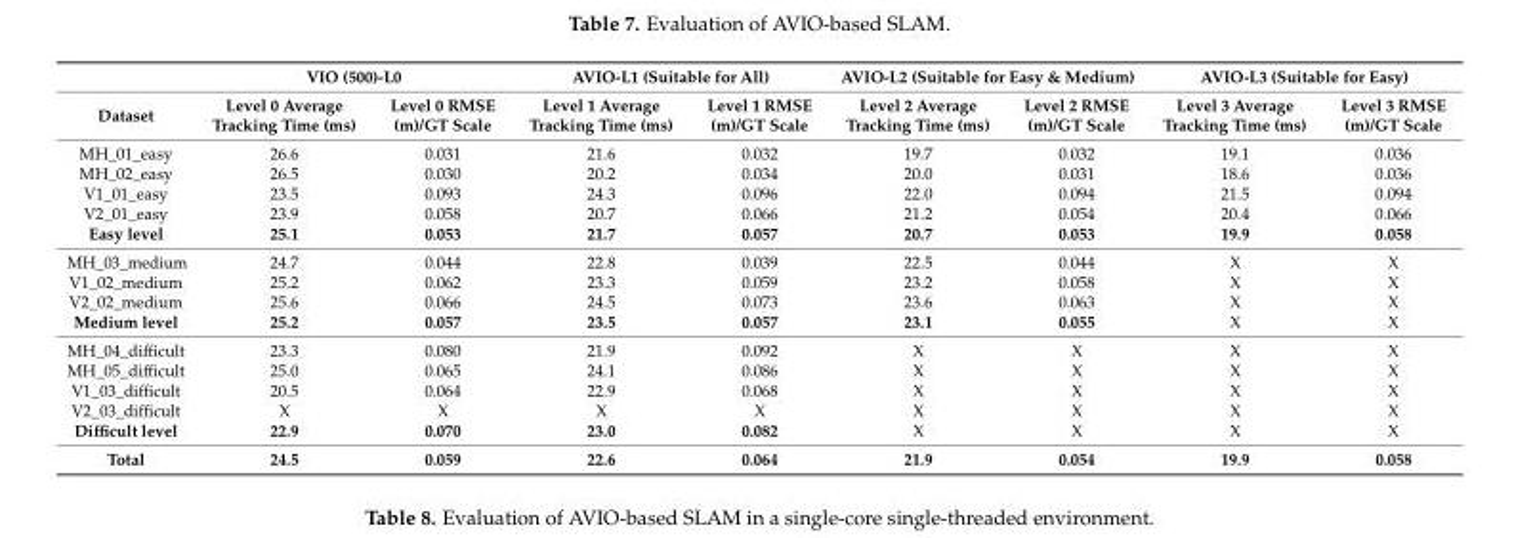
<table><thead><tr><td rowspan="2">Dataset</td><td colspan="2">VIO (500)-L0</td><td colspan="2">AVIO-L1 (Suitable for All)</td><td colspan="2">AVIO-L2 (Suitable for Easy &amp; Medium)</td><td colspan="2">AVIO-L3 (Suitable for Easy)</td></tr><tr><td>Level 0 Average Tracking Time (ms)</td><td>Level 0 RMSE (m)/GT Scale</td><td>Level 1 Average Tracking Time (ms)</td><td>Level 1 RMSE (m)/GT Scale</td><td>Level 2 Average Tracking Time (ms)</td><td>Level 2 RMSE (m)/GT Scale</td><td>Level 3 Average Tracking Time (ms)</td><td>Level 3 RMSE (m)/GT Scale</td></tr></thead><tbody><tr><td>MH_01_easy</td><td>26.6</td><td>0.031</td><td>21.6</td><td>0.032</td><td>19.7</td><td>0.032</td><td>19.1</td><td>0.036</td></tr><tr><td>MH_02_easy</td><td>26.5</td><td>0.030</td><td>20.2</td><td>0.034</td><td>20.0</td><td>0.031</td><td>18.6</td><td>0.036</td></tr><tr><td>V1_01_easy</td><td>23.5</td><td>0.093</td><td>24.3</td><td>0.096</td><td>22.0</td><td>0.094</td><td>21.5</td><td>0.094</td></tr><tr><td>V2_01_easy</td><td>23.9</td><td>0.058</td><td>20.7</td><td>0.066</td><td>21.2</td><td>0.054</td><td>20.4</td><td>0.066</td></tr><tr><td>Easy level</td><td>25.1</td><td>0.053</td><td>21.7</td><td>0.057</td><td>20.7</td><td>0.053</td><td>19.9</td><td>0.058</td></tr><tr><td>MH_03_medium</td><td>24.7</td><td>0.044</td><td>22.8</td><td>0.039</td><td>22.5</td><td>0.044</td><td>X</td><td>X</td></tr><tr><td>V1_02_medium</td><td>25.2</td><td>0.062</td><td>23.3</td><td>0.059</td><td>23.2</td><td>0.058</td><td>X</td><td>X</td></tr><tr><td>V2_02_medium</td><td>25.6</td><td>0.066</td><td>24.5</td><td>0.073</td><td>23.6</td><td>0.063</td><td>X</td><td>X</td></tr><tr><td>Medium level</td><td>25.2</td><td>0.057</td><td>23.5</td><td>0.057</td><td>23.1</td><td>0.055</td><td>X</td><td>X</td></tr><tr><td>MH_04_difficult</td><td>23.3</td><td>0.080</td><td>21.9</td><td>0.092</td><td>X</td><td>X</td><td>X</td><td>X</td></tr><tr><td>MH_05_difficult</td><td>25.0</td><td>0.065</td><td>24.1</td><td>0.086</td><td>X</td><td>X</td><td>X</td><td>X</td></tr><tr><td>V1_03_difficult</td><td>20.5</td><td>0.064</td><td>22.9</td><td>0.068</td><td>X</td><td>X</td><td>X</td><td>X</td></tr><tr><td>V2_03_difficult</td><td>X</td><td>X</td><td>X</td><td>X</td><td>X</td><td>X</td><td>X</td><td>X</td></tr><tr><td>Difficult level</td><td>22.9</td><td>0.070</td><td>23.0</td><td>0.082</td><td>X</td><td>X</td><td>X</td><td>X</td></tr><tr><td>Total</td><td>24.5</td><td>0.059</td><td>22.6</td><td>0.064</td><td>21.9</td><td>0.054</td><td>19.9</td><td>0.058</td></tr></tbody></table>